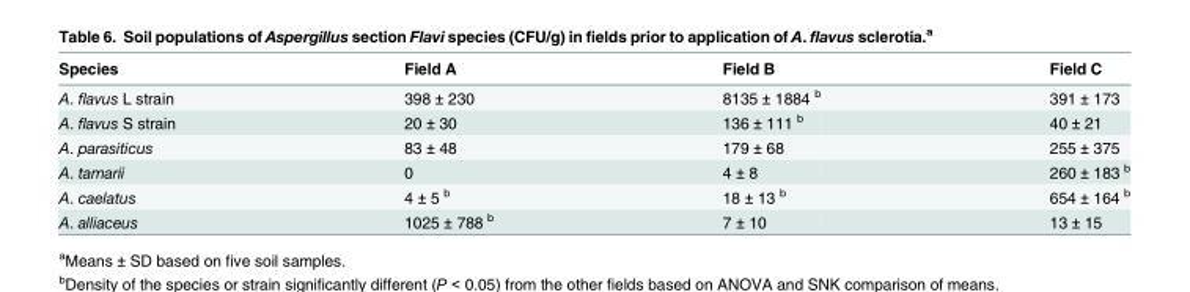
<table><thead><tr><td>Species</td><td>Field A</td><td>Field B</td><td>Field C</td></tr></thead><tbody><tr><td>A. flavus L strain</td><td>398 ± 230</td><td>8135 ± 1884 <sup>b</sup></td><td>391 ± 173</td></tr><tr><td>A. flavus S strain</td><td>20 ± 30</td><td>136 ± 111 <sup>b</sup></td><td>40 ± 21</td></tr><tr><td>A. parasiticus</td><td>83 ± 48</td><td>179 ± 68</td><td>255 ± 375</td></tr><tr><td>A. tamarii</td><td>0</td><td>4 ± 8</td><td>260 ± 183 <sup>b</sup></td></tr><tr><td>A. caelatus</td><td>4 ± 5 <sup>b</sup></td><td>18 ± 13 <sup>b</sup></td><td>654 ± 164 <sup>b</sup></td></tr><tr><td>A. alliaceus</td><td>1025 ± 788 <sup>b</sup></td><td>7 ± 10</td><td>13 ± 15</td></tr></tbody></table>